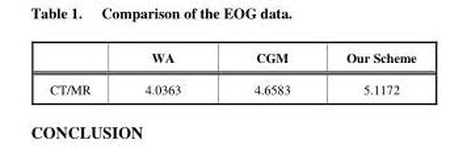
<table><thead><tr><td></td><td>WA</td><td>CGM</td><td>Our Scheme</td></tr></thead><tbody><tr><td>CT/MR</td><td>4.0363</td><td>4.6583</td><td>5.1172</td></tr></tbody></table>